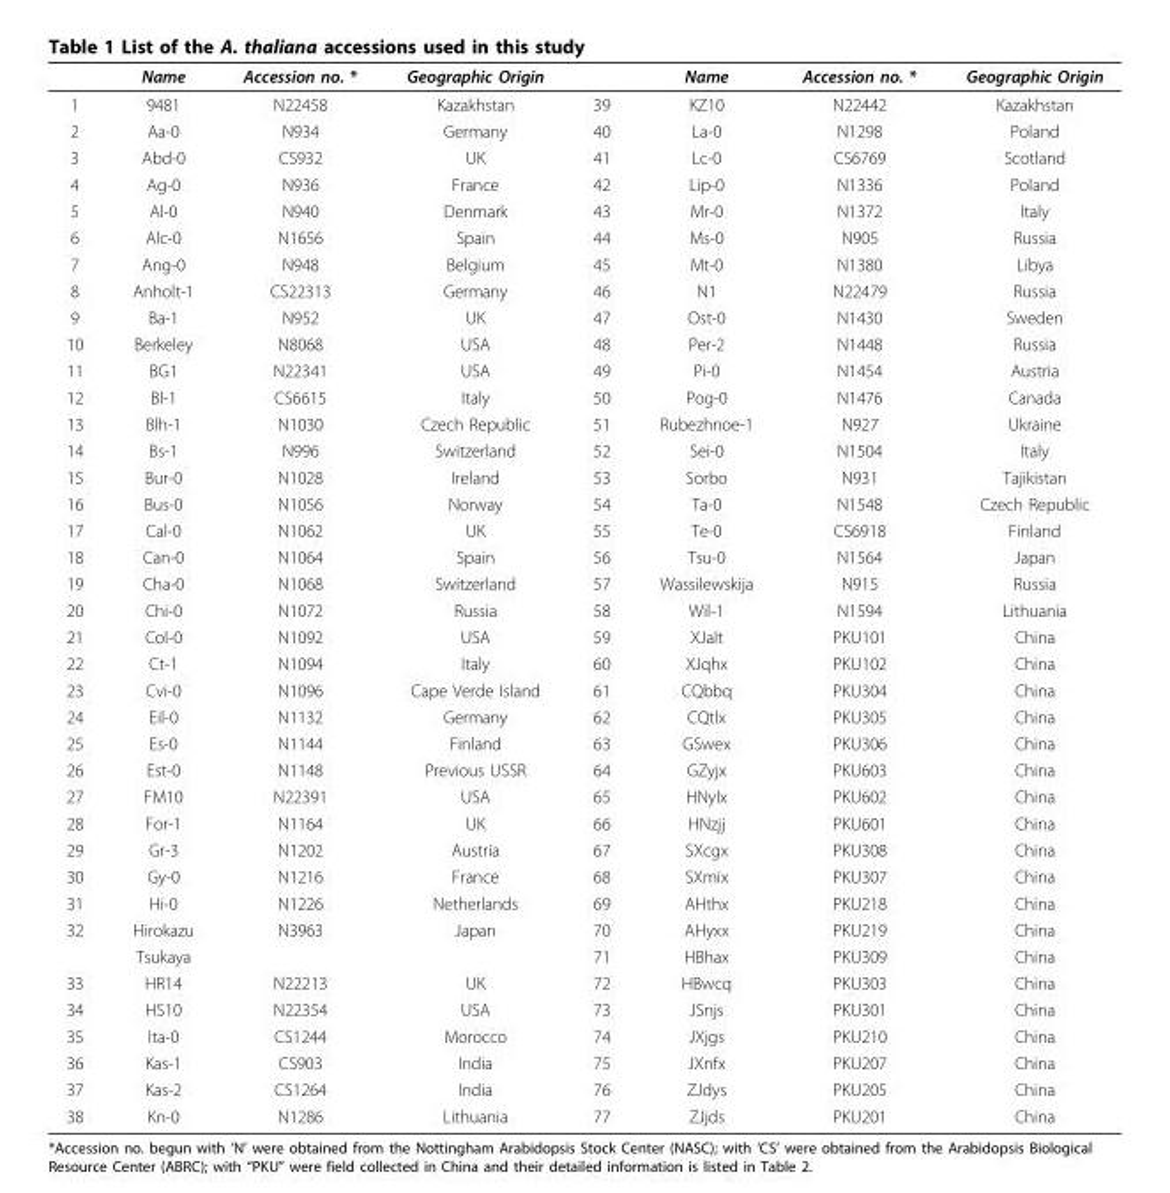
<table><thead><tr><td></td><td>Name</td><td>Accession no. *</td><td>Geographic Origin</td><td></td><td>Name</td><td>Accession no. *</td><td>Geographic Origin</td></tr></thead><tbody><tr><td>1</td><td>9481</td><td>N22458</td><td>Kazakhstan</td><td>39</td><td>KZ10</td><td>N22442</td><td>Kazakhstan</td></tr><tr><td>2</td><td>Aa-0</td><td>N934</td><td>Germany</td><td>40</td><td>La-0</td><td>N1298</td><td>Poland</td></tr><tr><td>3</td><td>Abd-0</td><td>CS932</td><td>UK</td><td>41</td><td>Lc-0</td><td>CS6769</td><td>Scotland</td></tr><tr><td>4</td><td>Ag-0</td><td>N936</td><td>France</td><td>42</td><td>Lip-0</td><td>N1336</td><td>Poland</td></tr><tr><td>5</td><td>Al-0</td><td>N940</td><td>Denmark</td><td>43</td><td>Mr-0</td><td>N1372</td><td>Italy</td></tr><tr><td>6</td><td>Alc-0</td><td>N1656</td><td>Spain</td><td>44</td><td>Ms-0</td><td>N905</td><td>Russia</td></tr><tr><td>7</td><td>Ang-0</td><td>N948</td><td>Belgium</td><td>45</td><td>Mt-0</td><td>N1380</td><td>Libya</td></tr><tr><td>8</td><td>Anholt-1</td><td>CS22313</td><td>Germany</td><td>46</td><td>N1</td><td>N22479</td><td>Russia</td></tr><tr><td>9</td><td>Ba-1</td><td>N952</td><td>UK</td><td>47</td><td>Ost-0</td><td>N1430</td><td>Sweden</td></tr><tr><td>10</td><td>Berkeley</td><td>N8068</td><td>USA</td><td>48</td><td>Per-2</td><td>N1448</td><td>Russia</td></tr><tr><td>11</td><td>BG1</td><td>N22341</td><td>USA</td><td>49</td><td>Pi-0</td><td>N1454</td><td>Austria</td></tr><tr><td>12</td><td>Bl-1</td><td>CS6615</td><td>Italy</td><td>50</td><td>Pog-0</td><td>N1476</td><td>Canada</td></tr><tr><td>13</td><td>Blh-1</td><td>N1030</td><td>Czech Republic</td><td>51</td><td>Rubezhnoe-1</td><td>N927</td><td>Ukraine</td></tr><tr><td>14</td><td>Bs-1</td><td>N996</td><td>Switzerland</td><td>52</td><td>Sei-0</td><td>N1504</td><td>Italy</td></tr><tr><td>15</td><td>Bur-0</td><td>N1028</td><td>Ireland</td><td>53</td><td>Sorbo</td><td>N931</td><td>Tajikistan</td></tr><tr><td>16</td><td>Bus-0</td><td>N1056</td><td>Norway</td><td>54</td><td>Ta-0</td><td>N1548</td><td>Czech Republic</td></tr><tr><td>17</td><td>Cal-0</td><td>N1062</td><td>UK</td><td>55</td><td>Te-0</td><td>CS6918</td><td>Finland</td></tr><tr><td>18</td><td>Can-0</td><td>N1064</td><td>Spain</td><td>56</td><td>Tsu-0</td><td>N1564</td><td>Japan</td></tr><tr><td>19</td><td>Cha-0</td><td>N1068</td><td>Switzerland</td><td>57</td><td>Wassilewskija</td><td>N915</td><td>Russia</td></tr><tr><td>20</td><td>Chi-0</td><td>N1072</td><td>Russia</td><td>58</td><td>Wil-1</td><td>N1594</td><td>Lithuania</td></tr><tr><td>21</td><td>Col-0</td><td>N1092</td><td>USA</td><td>59</td><td>XJalt</td><td>PKU101</td><td>China</td></tr><tr><td>22</td><td>Ct-1</td><td>N1094</td><td>Italy</td><td>60</td><td>XJqhx</td><td>PKU102</td><td>China</td></tr><tr><td>23</td><td>Cvi-0</td><td>N1096</td><td>Cape Verde Island</td><td>61</td><td>CQbbq</td><td>PKU304</td><td>China</td></tr><tr><td>24</td><td>Eil-0</td><td>N1132</td><td>Germany</td><td>62</td><td>CQtlx</td><td>PKU305</td><td>China</td></tr><tr><td>25</td><td>Es-0</td><td>N1144</td><td>Finland</td><td>63</td><td>GSwex</td><td>PKU306</td><td>China</td></tr><tr><td>26</td><td>Est-0</td><td>N1148</td><td>Previous USSR</td><td>64</td><td>GZyjx</td><td>PKU603</td><td>China</td></tr><tr><td>27</td><td>FM10</td><td>N22391</td><td>USA</td><td>65</td><td>HNylx</td><td>PKU602</td><td>China</td></tr><tr><td>28</td><td>For-1</td><td>N1164</td><td>UK</td><td>66</td><td>HNzjj</td><td>PKU601</td><td>China</td></tr><tr><td>29</td><td>Gr-3</td><td>N1202</td><td>Austria</td><td>67</td><td>SXcgx</td><td>PKU308</td><td>China</td></tr><tr><td>30</td><td>Gy-0</td><td>N1216</td><td>France</td><td>68</td><td>SXmix</td><td>PKU307</td><td>China</td></tr><tr><td>31</td><td>Hi-0</td><td>N1226</td><td>Netherlands</td><td>69</td><td>AHthx</td><td>PKU218</td><td>China</td></tr><tr><td rowspan="2">32</td><td>Hirokazu</td><td>N3963</td><td>Japan</td><td>70</td><td>AHyxx</td><td>PKU219</td><td>China</td></tr><tr><td>Tsukaya</td><td></td><td></td><td>71</td><td>HBhax</td><td>PKU309</td><td>China</td></tr><tr><td>33</td><td>HR14</td><td>N22213</td><td>UK</td><td>72</td><td>HBwcq</td><td>PKU303</td><td>China</td></tr><tr><td>34</td><td>HS10</td><td>N22354</td><td>USA</td><td>73</td><td>JSnjs</td><td>PKU301</td><td>China</td></tr><tr><td>35</td><td>Ita-0</td><td>CS1244</td><td>Morocco</td><td>74</td><td>JXjgs</td><td>PKU210</td><td>China</td></tr><tr><td>36</td><td>Kas-1</td><td>CS903</td><td>India</td><td>75</td><td>JXnfx</td><td>PKU207</td><td>China</td></tr><tr><td>37</td><td>Kas-2</td><td>CS1264</td><td>India</td><td>76</td><td>ZJdys</td><td>PKU205</td><td>China</td></tr><tr><td>38</td><td>Kn-0</td><td>N1286</td><td>Lithuania</td><td>77</td><td>ZJjds</td><td>PKU201</td><td>China</td></tr></tbody></table>